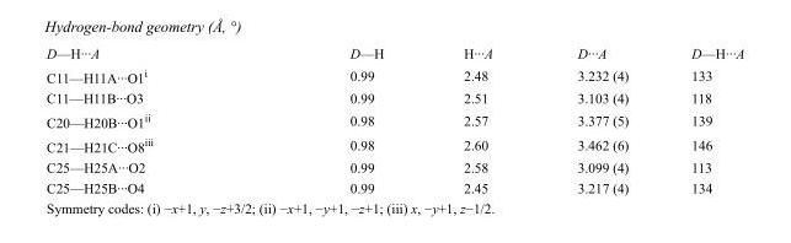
<table><tbody><tr><td>D—H···A</td><td>D—H</td><td>H···A</td><td>D···A</td><td>D—H···A</td></tr><tr><td>C11—H11A···O1<sup>i</sup></td><td>0.99</td><td>2.48</td><td>3.232 (4)</td><td>133</td></tr><tr><td>C11—H11B···O3</td><td>0.99</td><td>2.51</td><td>3.103 (4)</td><td>118</td></tr><tr><td>C20—H20B···O1<sup>ii</sup></td><td>0.98</td><td>2.57</td><td>3.377 (5)</td><td>139</td></tr><tr><td>C21—H21C···O8<sup>iii</sup></td><td>0.98</td><td>2.60</td><td>3.462 (6)</td><td>146</td></tr><tr><td>C25—H25A···O2</td><td>0.99</td><td>2.58</td><td>3.099 (4)</td><td>113</td></tr><tr><td>C25—H25B···O4</td><td>0.99</td><td>2.45</td><td>3.217 (4)</td><td>134</td></tr></tbody></table>